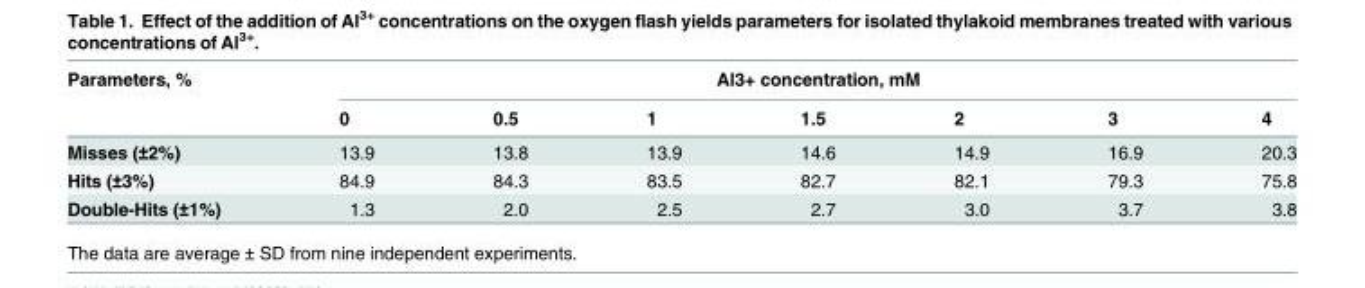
<table><thead><tr><td rowspan="2">Parameters, %</td><td colspan="7">Al3+ concentration, mM</td></tr><tr><td>0</td><td>0.5</td><td>1</td><td>1.5</td><td>2</td><td>3</td><td>4</td></tr></thead><tbody><tr><td>Misses (±2%)</td><td>13.9</td><td>13.8</td><td>13.9</td><td>14.6</td><td>14.9</td><td>16.9</td><td>20.3</td></tr><tr><td>Hits (±3%)</td><td>84.9</td><td>84.3</td><td>83.5</td><td>82.7</td><td>82.1</td><td>79.3</td><td>75.8</td></tr><tr><td>Double-Hits (±1%)</td><td>1.3</td><td>2.0</td><td>2.5</td><td>2.7</td><td>3.0</td><td>3.7</td><td>3.8</td></tr></tbody></table>